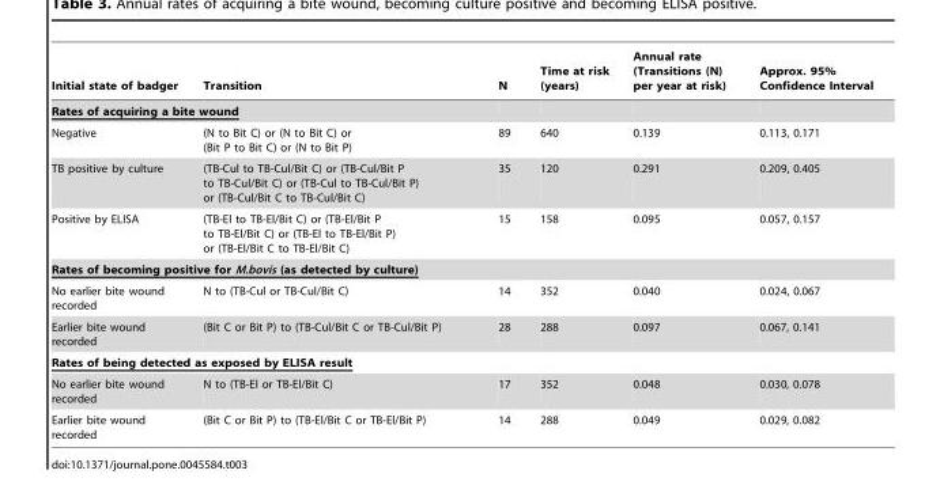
<table><thead><tr><td>Initial state of badger</td><td>Transition</td><td>N</td><td>Time at risk (years)</td><td>Annual rate (Transitions (N) per year at risk)</td><td>Approx. 95% Confidence Interval</td></tr></thead><tbody><tr><td colspan="6">Rates of acquiring a bite wound</td></tr><tr><td>Negative</td><td>(N to Bit C) or (N to Bit C) or (Bit P to Bit C) or (N to Bit P)</td><td>89</td><td>640</td><td>0.139</td><td>0.113, 0.171</td></tr><tr><td>TB positive by culture</td><td>(TB-Cul to TB-Cul/Bit C) or (TB-Cul/Bit P to TB-Cul/Bit C) or (TB-Cul to TB-Cul/Bit P) or (TB-Cul/Bit C to TB-Cul/Bit C)</td><td>35</td><td>120</td><td>0.291</td><td>0.209, 0.405</td></tr><tr><td>Positive by ELISA</td><td>(TB-El to TB-El/Bit C) or (TB-El/Bit P to TB-El/Bit C) or (TB-El to TB-El/Bit P) or (TB-El/Bit C to TB-El/Bit C)</td><td>15</td><td>158</td><td>0.095</td><td>0.057, 0.157</td></tr><tr><td colspan="6">Rates of becoming positive for M.bovis (as detected by culture)</td></tr><tr><td>No earlier bite wound recorded</td><td>N to (TB-Cul or TB-Cul/Bit C)</td><td>14</td><td>352</td><td>0.040</td><td>0.024, 0.067</td></tr><tr><td>Earlier bite wound recorded</td><td>(Bit C or Bit P) to (TB-Cul/Bit C or TB-Cul/Bit P)</td><td>28</td><td>288</td><td>0.097</td><td>0.067, 0.141</td></tr><tr><td colspan="6">Rates of being detected as exposed by ELISA result</td></tr><tr><td>No earlier bite wound recorded</td><td>N to (TB-El or TB-El/Bit C)</td><td>17</td><td>352</td><td>0.048</td><td>0.030, 0.078</td></tr><tr><td>Earlier bite wound recorded</td><td>(Bit C or Bit P) to (TB-El/Bit C or TB-El/Bit P)</td><td>14</td><td>288</td><td>0.049</td><td>0.029, 0.082</td></tr></tbody></table>